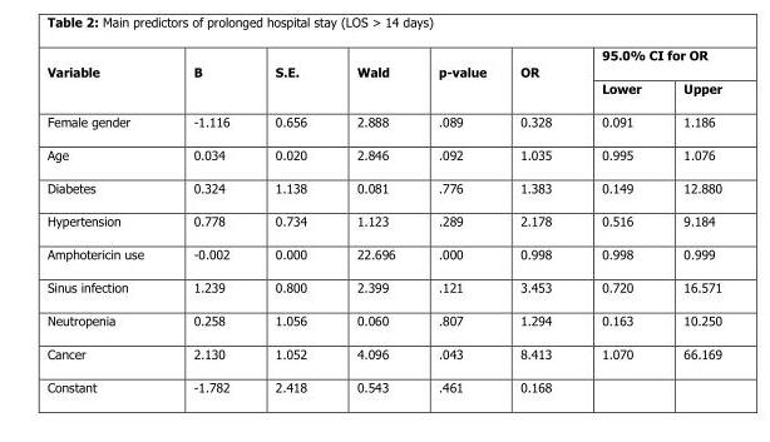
<table><thead><tr><td rowspan="2">Variable</td><td rowspan="2">B</td><td rowspan="2">S.E.</td><td rowspan="2">Wald</td><td rowspan="2">p-value</td><td rowspan="2">OR</td><td colspan="2">95.0% CI for OR</td></tr><tr><td>Lower</td><td>Upper</td></tr></thead><tbody><tr><td>Female gender</td><td>-1.116</td><td>0.656</td><td>2.888</td><td>.089</td><td>0.328</td><td>0.091</td><td>1.186</td></tr><tr><td>Age</td><td>0.034</td><td>0.020</td><td>2.846</td><td>.092</td><td>1.035</td><td>0.995</td><td>1.076</td></tr><tr><td>Diabetes</td><td>0.324</td><td>1.138</td><td>0.081</td><td>.776</td><td>1.383</td><td>0.149</td><td>12.880</td></tr><tr><td>Hypertension</td><td>0.778</td><td>0.734</td><td>1.123</td><td>.289</td><td>2.178</td><td>0.516</td><td>9.184</td></tr><tr><td>Amphotericin use</td><td>-0.002</td><td>0.000</td><td>22.696</td><td>.000</td><td>0.998</td><td>0.998</td><td>0.999</td></tr><tr><td>Sinus infection</td><td>1.239</td><td>0.800</td><td>2.399</td><td>.121</td><td>3.453</td><td>0.720</td><td>16.571</td></tr><tr><td>Neutropenia</td><td>0.258</td><td>1.056</td><td>0.060</td><td>.807</td><td>1.294</td><td>0.163</td><td>10.250</td></tr><tr><td>Cancer</td><td>2.130</td><td>1.052</td><td>4.096</td><td>.043</td><td>8.413</td><td>1.070</td><td>66.169</td></tr><tr><td>Constant</td><td>-1.782</td><td>2.418</td><td>0.543</td><td>.461</td><td>0.168</td><td></td><td></td></tr></tbody></table>